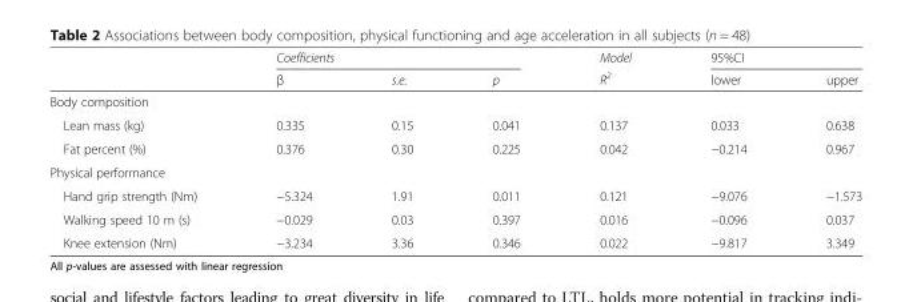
<table><thead><tr><td rowspan="2"></td><td colspan="3">Coefficients</td><td rowspan="2">Model R<sup>2</sup></td><td colspan="2">95%CI</td></tr><tr><td>β</td><td>s.e.</td><td>p</td><td>lower</td><td>upper</td></tr></thead><tbody><tr><td colspan="7">Body composition</td></tr><tr><td>Lean mass (kg)</td><td>0.335</td><td>0.15</td><td>0.041</td><td>0.137</td><td>0.033</td><td>0.638</td></tr><tr><td>Fat percent (%)</td><td>0.376</td><td>0.30</td><td>0.225</td><td>0.042</td><td>−0.214</td><td>0.967</td></tr><tr><td colspan="7">Physical performance</td></tr><tr><td>Hand grip strength (Nm)</td><td>−5.324</td><td>1.91</td><td>0.011</td><td>0.121</td><td>−9.076</td><td>−1.573</td></tr><tr><td>Walking speed 10 m (s)</td><td>−0.029</td><td>0.03</td><td>0.397</td><td>0.016</td><td>−0.096</td><td>0.037</td></tr><tr><td>Knee extension (Nm)</td><td>−3.234</td><td>3.36</td><td>0.346</td><td>0.022</td><td>−9.817</td><td>3.349</td></tr></tbody></table>